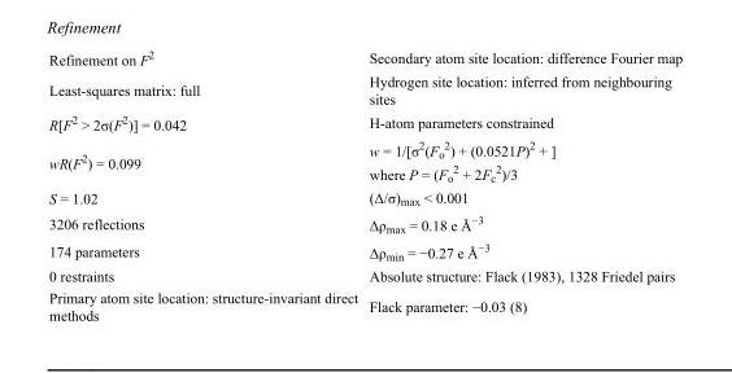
<table><tbody><tr><td>Refinement on F<sup>2</sup></td><td>Secondary atom site location: difference Fourier map</td></tr><tr><td>Least-squares matrix: full</td><td>Hydrogen site location: inferred from neighbouring sites</td></tr><tr><td>R[F<sup>2</sup> &gt; 2σ(F<sup>2</sup>)] = 0.042</td><td>H-atom parameters constrained</td></tr><tr><td>wR(F<sup>2</sup>) = 0.099</td><td>w = 1/[σ<sup>2</sup>(F<sub>o</sub> <sup>2</sup>) + (0.0521P)<sup>2</sup> + ] where P = (F<sub>o</sub> <sup>2</sup> + 2F<sub>c</sub> <sup>2</sup>)/3</td></tr><tr><td>S = 1.02</td><td>(Δ/σ)<sub>max</sub> &lt; 0.001</td></tr><tr><td>3206 reflections</td><td>Δρ<sub>max</sub> = 0.18 e Å<sup>−3</sup></td></tr><tr><td>174 parameters</td><td>Δρ<sub>min</sub> = −0.27 e Å<sup>−3</sup></td></tr><tr><td>0 restraints</td><td>Absolute structure: Flack (1983), 1328 Friedel pairs</td></tr><tr><td>Primary atom site location: structure-invariant direct methods</td><td>Flack parameter: −0.03 (8)</td></tr></tbody></table>